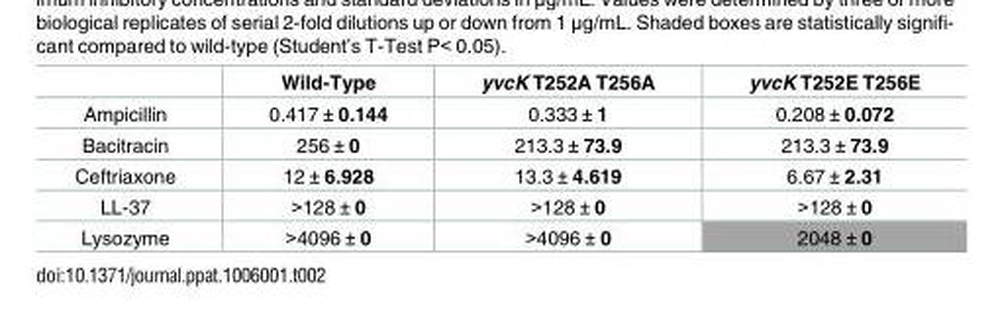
<table><thead><tr><td></td><td>Wild-Type</td><td>yvcK T252A T256A</td><td>yvcK T252E T256E</td></tr></thead><tbody><tr><td>Ampicillin</td><td>0.417 ± 0.144</td><td>0.333 ± 1</td><td>0.208 ± 0.072</td></tr><tr><td>Bacitracin</td><td>256 ± 0</td><td>213.3 ± 73.9</td><td>213.3 ± 73.9</td></tr><tr><td>Ceftriaxone</td><td>12 ± 6.928</td><td>13.3 ± 4.619</td><td>6.67 ± 2.31</td></tr><tr><td>LL-37</td><td>&gt;128 ± 0</td><td>&gt;128 ± 0</td><td>&gt;128 ± 0</td></tr><tr><td>Lysozyme</td><td>&gt;4096 ± 0</td><td>&gt;4096 ± 0</td><td>2048 ± 0</td></tr></tbody></table>